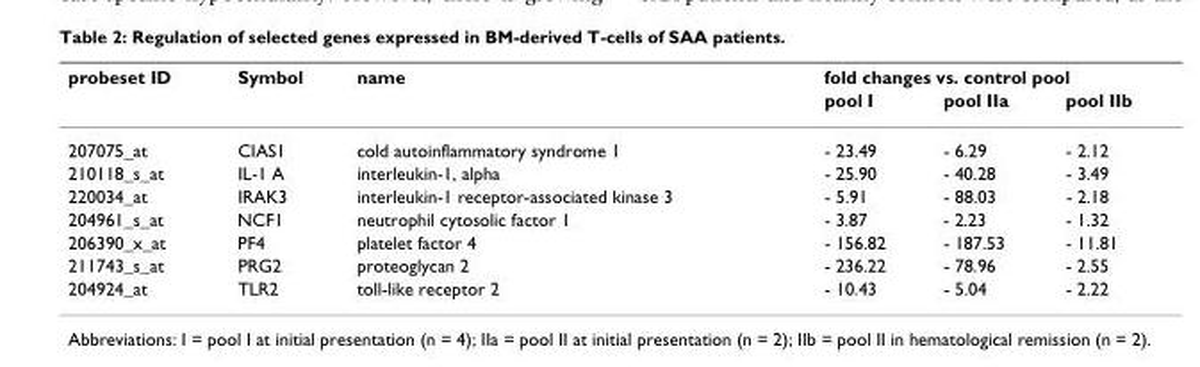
<table><thead><tr><td rowspan="2">probeset ID</td><td rowspan="2">Symbol</td><td rowspan="2">name</td><td colspan="3">fold changes vs. control pool</td></tr><tr><td>pool I</td><td>pool IIa</td><td>pool IIb</td></tr></thead><tbody><tr><td>207075_at</td><td>CIAS1</td><td>cold autoinflammatory syndrome 1</td><td>- 23.49</td><td>- 6.29</td><td>- 2.12</td></tr><tr><td>210118_s_at</td><td>IL-1 A</td><td>interleukin-1, alpha</td><td>- 25.90</td><td>- 40.28</td><td>- 3.49</td></tr><tr><td>220034_at</td><td>IRAK3</td><td>interleukin-1 receptor-associated kinase 3</td><td>- 5.91</td><td>- 88.03</td><td>- 2.18</td></tr><tr><td>204961_s_at</td><td>NCF1</td><td>neutrophil cytosolic factor 1</td><td>- 3.87</td><td>- 2.23</td><td>- 1.32</td></tr><tr><td>206390_x_at</td><td>PF4</td><td>platelet factor 4</td><td>- 156.82</td><td>- 187.53</td><td>- 11.81</td></tr><tr><td>211743_s_at</td><td>PRG2</td><td>proteoglycan 2</td><td>- 236.22</td><td>- 78.96</td><td>- 2.55</td></tr><tr><td>204924_at</td><td>TLR2</td><td>toll-like receptor 2</td><td>- 10.43</td><td>- 5.04</td><td>- 2.22</td></tr></tbody></table>